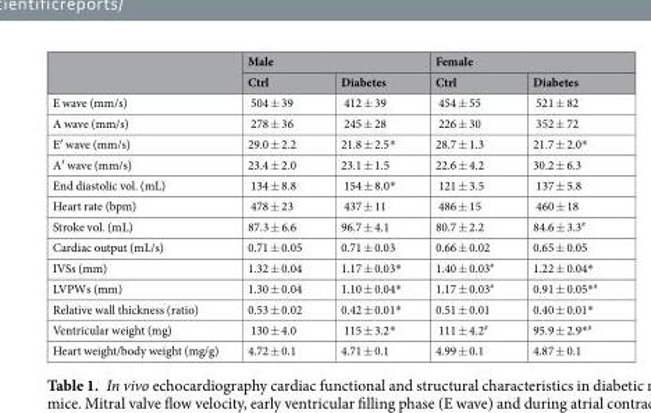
<table><thead><tr><td rowspan="2"></td><td colspan="2">Male</td><td colspan="2">Female</td></tr><tr><td>Ctrl</td><td>Diabetes</td><td>Ctrl</td><td>Diabetes</td></tr></thead><tbody><tr><td>E wave (mm/s)</td><td>504 ± 39</td><td>412 ± 39</td><td>454 ± 55</td><td>521 ± 82</td></tr><tr><td>A wave (mm/s)</td><td>278 ± 36</td><td>245 ± 28</td><td>226 ± 30</td><td>352 ± 72</td></tr><tr><td>E′ wave (mm/s)</td><td>29.0 ± 2.2</td><td>21.8 ± 2.5*</td><td>28.7 ± 1.3</td><td>21.7 ± 2.0*</td></tr><tr><td>A′ wave (mm/s)</td><td>23.4 ± 2.0</td><td>23.1 ± 1.5</td><td>22.6 ± 4.2</td><td>30.2 ± 6.3</td></tr><tr><td>End diastolic vol. (mL)</td><td>134 ± 8.8</td><td>154 ± 8.0*</td><td>121 ± 3.5</td><td>137 ± 5.8</td></tr><tr><td>Heart rate (bpm)</td><td>478 ± 23</td><td>437 ± 11</td><td>486 ± 15</td><td>460 ± 18</td></tr><tr><td>Stroke vol. (mL)</td><td>87.3 ± 6.6</td><td>96.7 ± 4.1</td><td>80.7 ± 2.2</td><td>84.6 ± 3.3<sup>#</sup></td></tr><tr><td>Cardiac output (mL/s)</td><td>0.71 ± 0.05</td><td>0.71 ± 0.03</td><td>0.66 ± 0.02</td><td>0.65 ± 0.05</td></tr><tr><td>IVSs (mm)</td><td>1.32 ± 0.04</td><td>1.17 ± 0.03*</td><td>1.40 ± 0.03<sup>#</sup></td><td>1.22 ± 0.04*</td></tr><tr><td>LVPWs (mm)</td><td>1.30 ± 0.04</td><td>1.10 ± 0.04*</td><td>1.17 ± 0.03<sup>#</sup></td><td>0.91 ± 0.05*<sup>#</sup></td></tr><tr><td>Relative wall thickness (ratio)</td><td>0.53 ± 0.02</td><td>0.42 ± 0.01*</td><td>0.51 ± 0.01</td><td>0.40 ± 0.01*</td></tr><tr><td>Ventricular weight (mg)</td><td>130 ± 4.0</td><td>115 ± 3.2*</td><td>111 ± 4.2<sup>#</sup></td><td>95.9 ± 2.9*<sup>#</sup></td></tr><tr><td>Heart weight/body weight (mg/g)</td><td>4.72 ± 0.1</td><td>4.71 ± 0.1</td><td>4.99 ± 0.1</td><td>4.87 ± 0.1</td></tr></tbody></table>